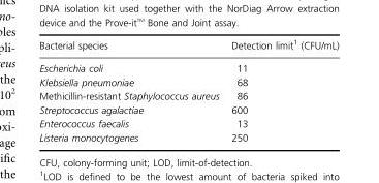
<table><thead><tr><td>Bacterial species</td><td>Detection limit<sup>1</sup> (CFU/mL)</td></tr></thead><tbody><tr><td>Escherichia coli</td><td>11</td></tr><tr><td>Klebsiella pneumoniae</td><td>68</td></tr><tr><td>Methicillin-resistant Staphylococcus aureus</td><td>86</td></tr><tr><td>Streptococcus agalactiae</td><td>600</td></tr><tr><td>Enterococcus faecalis</td><td>13</td></tr><tr><td>Listeria monocytogenes</td><td>250</td></tr></tbody></table>